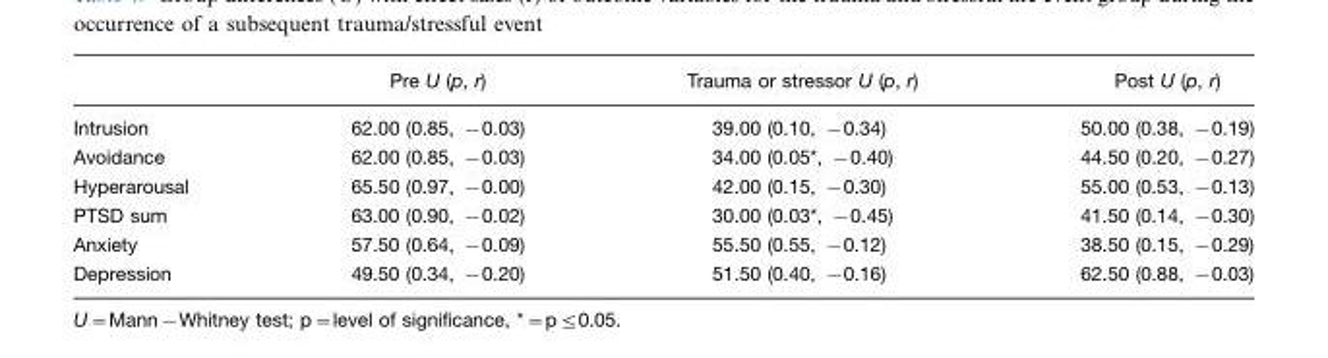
<table><thead><tr><td></td><td>Pre U (p, r)</td><td>Trauma or stressor U (p, r)</td><td>Post U (p, r)</td></tr></thead><tbody><tr><td>Intrusion</td><td>62.00 (0.85, −0.03)</td><td>39.00 (0.10, −0.34)</td><td>50.00 (0.38, −0.19)</td></tr><tr><td>Avoidance</td><td>62.00 (0.85, −0.03)</td><td>34.00 (0.05*, −0.40)</td><td>44.50 (0.20, −0.27)</td></tr><tr><td>Hyperarousal</td><td>65.50 (0.97, −0.00)</td><td>42.00 (0.15, −0.30)</td><td>55.00 (0.53, −0.13)</td></tr><tr><td>PTSD sum</td><td>63.00 (0.90, −0.02)</td><td>30.00 (0.03*, −0.45)</td><td>41.50 (0.14, −0.30)</td></tr><tr><td>Anxiety</td><td>57.50 (0.64, −0.09)</td><td>55.50 (0.55, −0.12)</td><td>38.50 (0.15, −0.29)</td></tr><tr><td>Depression</td><td>49.50 (0.34, −0.20)</td><td>51.50 (0.40, −0.16)</td><td>62.50 (0.88, −0.03)</td></tr></tbody></table>